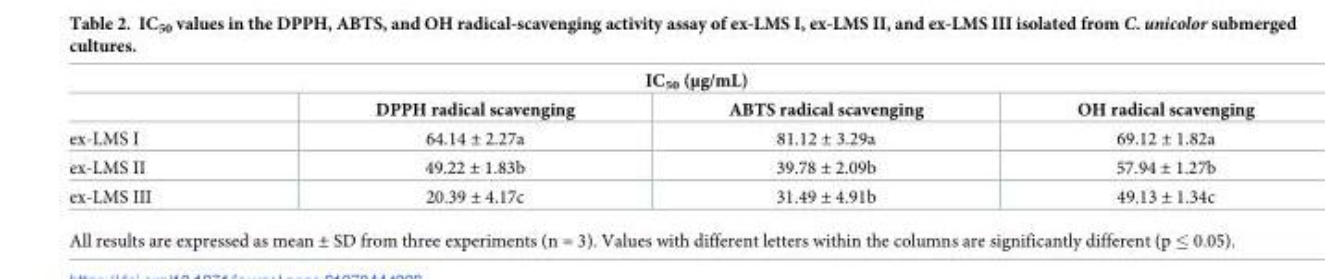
<table><thead><tr><td colspan="4">IC<sub>50</sub> (μg/mL)</td></tr><tr><td></td><td>DPPH radical scavenging</td><td>ABTS radical scavenging</td><td>OH radical scavenging</td></tr></thead><tbody><tr><td>ex-LMS I</td><td>64.14 ± 2.27a</td><td>81.12 ± 3.29a</td><td>69.12 ± 1.82a</td></tr><tr><td>ex-LMS II</td><td>49.22 ± 1.83b</td><td>39.78 ± 2.09b</td><td>57.94 ± 1.27b</td></tr><tr><td>ex-LMS III</td><td>20.39 ± 4.17c</td><td>31.49 ± 4.91b</td><td>49.13 ± 1.34c</td></tr></tbody></table>